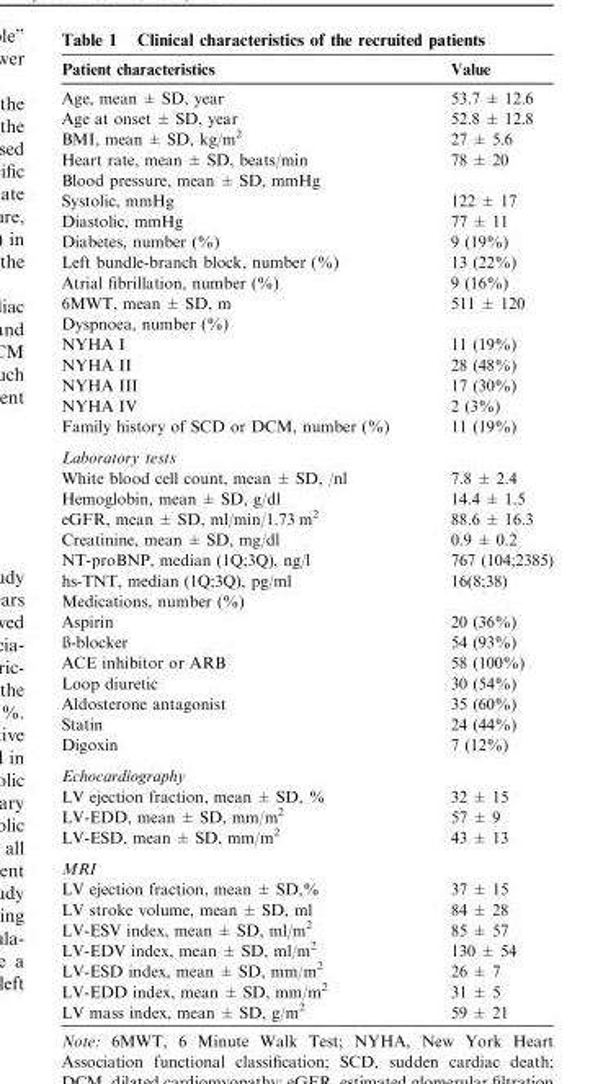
<table><thead><tr><td>Patient characteristics</td><td>Value</td></tr></thead><tbody><tr><td>Age, mean ± SD, year</td><td>53.7 ± 12.6</td></tr><tr><td>Age at onset ± SD, year</td><td>52.8 ± 12.8</td></tr><tr><td>BMI, mean ± SD, kg/m<sup>2</sup></td><td>27 ± 5.6</td></tr><tr><td>Heart rate, mean ± SD, beats/min</td><td>78 ± 20</td></tr><tr><td colspan="2">Blood pressure, mean ± SD, mmHg</td></tr><tr><td>Systolic, mmHg</td><td>122 ± 17</td></tr><tr><td>Diastolic, mmHg</td><td>77 ± 11</td></tr><tr><td>Diabetes, number (%)</td><td>9 (19%)</td></tr><tr><td>Left bundle-branch block, number (%)</td><td>13 (22%)</td></tr><tr><td>Atrial fibrillation, number (%)</td><td>9 (16%)</td></tr><tr><td>6MWT, mean ± SD, m</td><td>511 ± 120</td></tr><tr><td colspan="2">Dyspnoea, number (%)</td></tr><tr><td>NYHA I</td><td>11 (19%)</td></tr><tr><td>NYHA II</td><td>28 (48%)</td></tr><tr><td>NYHA III</td><td>17 (30%)</td></tr><tr><td>NYHA IV</td><td>2 (3%)</td></tr><tr><td>Family history of SCD or DCM, number (%)</td><td>11 (19%)</td></tr><tr><td colspan="2">Laboratory tests</td></tr><tr><td>White blood cell count, mean ± SD, /nl</td><td>7.8 ± 2.4</td></tr><tr><td>Hemoglobin, mean ± SD, g/dl</td><td>14.4 ± 1.5</td></tr><tr><td>eGFR, mean ± SD, ml/min/1.73 m<sup>2</sup></td><td>88.6 ± 16.3</td></tr><tr><td>Creatinine, mean ± SD, mg/dl</td><td>0.9 ± 0.2</td></tr><tr><td>NT-proBNP, median (1Q;3Q), ng/l</td><td>767 (104;2385)</td></tr><tr><td>hs-TNT, median (1Q;3Q), pg/ml</td><td>16(8;38)</td></tr><tr><td colspan="2">Medications, number (%)</td></tr><tr><td>Aspirin</td><td>20 (36%)</td></tr><tr><td>ß-blocker</td><td>54 (93%)</td></tr><tr><td>ACE inhibitor or ARB</td><td>58 (100%)</td></tr><tr><td>Loop diuretic</td><td>30 (54%)</td></tr><tr><td>Aldosterone antagonist</td><td>35 (60%)</td></tr><tr><td>Statin</td><td>24 (44%)</td></tr><tr><td>Digoxin</td><td>7 (12%)</td></tr><tr><td colspan="2">Echocardiography</td></tr><tr><td>LV ejection fraction, mean ± SD, %</td><td>32 ± 15</td></tr><tr><td>LV-EDD, mean ± SD, mm/m<sup>2</sup></td><td>57 ± 9</td></tr><tr><td>LV-ESD, mean ± SD, mm/m<sup>2</sup></td><td>43 ± 13</td></tr><tr><td colspan="2">MRI</td></tr><tr><td>LV ejection fraction, mean ± SD,%</td><td>37 ± 15</td></tr><tr><td>LV stroke volume, mean ± SD, ml</td><td>84 ± 28</td></tr><tr><td>LV-ESV index, mean ± SD, ml/m<sup>2</sup></td><td>85 ± 57</td></tr><tr><td>LV-EDV index, mean ± SD, ml/m<sup>2</sup></td><td>130 ± 54</td></tr><tr><td>LV-ESD index, mean ± SD, mm/m<sup>2</sup></td><td>26 ± 7</td></tr><tr><td>LV-EDD index, mean ± SD, mm/m<sup>2</sup></td><td>31 ± 5</td></tr><tr><td>LV mass index, mean ± SD, g/m<sup>2</sup></td><td>59 ± 21</td></tr></tbody></table>